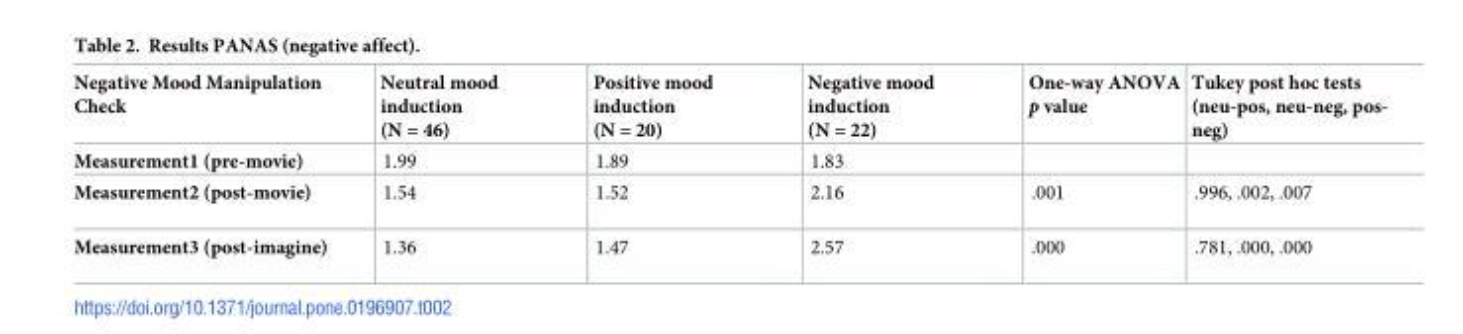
<table><thead><tr><td>Negative Mood Manipulation Check</td><td>Neutral mood induction (N = 46)</td><td>Positive mood induction (N = 20)</td><td>Negative mood induction (N = 22)</td><td>One-way ANOVA p value</td><td>Tukey post hoc tests (neu-pos, neu-neg, pos- neg)</td></tr></thead><tbody><tr><td>Measurement1 (pre-movie)</td><td>1.99</td><td>1.89</td><td>1.83</td><td></td><td></td></tr><tr><td>Measurement2 (post-movie)</td><td>1.54</td><td>1.52</td><td>2.16</td><td>.001</td><td>.996, .002, .007</td></tr><tr><td>Measurement3 (post-imagine)</td><td>1.36</td><td>1.47</td><td>2.57</td><td>.000</td><td>.781, .000, .000</td></tr></tbody></table>